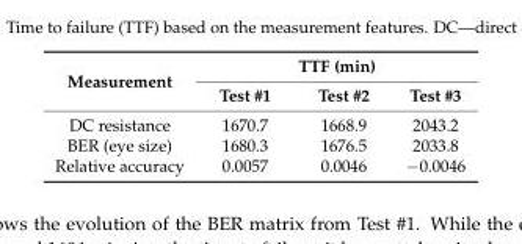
<table><thead><tr><td rowspan="2">Measurement</td><td colspan="3">TTF (min)</td></tr><tr><td>Test #1</td><td>Test #2</td><td>Test #3</td></tr></thead><tbody><tr><td>DC resistance</td><td>1670.7</td><td>1668.9</td><td>2043.2</td></tr><tr><td>BER (eye size)</td><td>1680.3</td><td>1676.5</td><td>2033.8</td></tr><tr><td>Relative accuracy</td><td>0.0057</td><td>0.0046</td><td>−0.0046</td></tr></tbody></table>